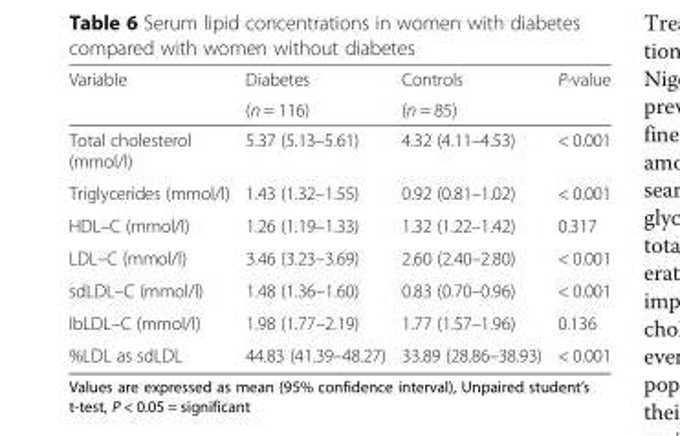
<table><thead><tr><td rowspan="2">Variable</td><td rowspan="2">Diabetes (n = 116)</td><td rowspan="2">Controls (n = 85)</td><td rowspan="2">P-value</td></tr><tr></tr></thead><tbody><tr><td>Total cholesterol (mmol/l)</td><td>5.37 (5.13–5.61)</td><td>4.32 (4.11–4.53)</td><td>&lt; 0.001</td></tr><tr><td>Triglycerides (mmol/l)</td><td>1.43 (1.32–1.55)</td><td>0.92 (0.81–1.02)</td><td>&lt; 0.001</td></tr><tr><td>HDL–C (mmol/l)</td><td>1.26 (1.19–1.33)</td><td>1.32 (1.22–1.42)</td><td>0.317</td></tr><tr><td>LDL–C (mmol/l)</td><td>3.46 (3.23–3.69)</td><td>2.60 (2.40–2.80)</td><td>&lt; 0.001</td></tr><tr><td>sdLDL–C (mmol/l)</td><td>1.48 (1.36–1.60)</td><td>0.83 (0.70–0.96)</td><td>&lt; 0.001</td></tr><tr><td>lbLDL–C (mmol/l)</td><td>1.98 (1.77–2.19)</td><td>1.77 (1.57–1.96)</td><td>0.136</td></tr><tr><td>%LDL as sdLDL</td><td>44.83 (41.39–48.27)</td><td>33.89 (28.86–38.93)</td><td>&lt; 0.001</td></tr></tbody></table>